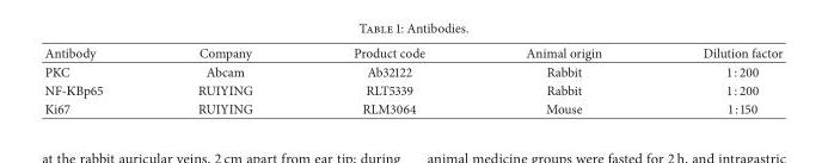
<table><thead><tr><td>Antibody</td><td>Company</td><td>Product code</td><td>Animal origin</td><td>Dilution factor</td></tr></thead><tbody><tr><td>PKC</td><td>Abcam</td><td>Ab32122</td><td>Rabbit</td><td>1 : 200</td></tr><tr><td>NF-КBp65</td><td>RUIYING</td><td>RLT5339</td><td>Rabbit</td><td>1 : 200</td></tr><tr><td>Ki67</td><td>RUIYING</td><td>RLM3064</td><td>Mouse</td><td>1 : 150</td></tr></tbody></table>